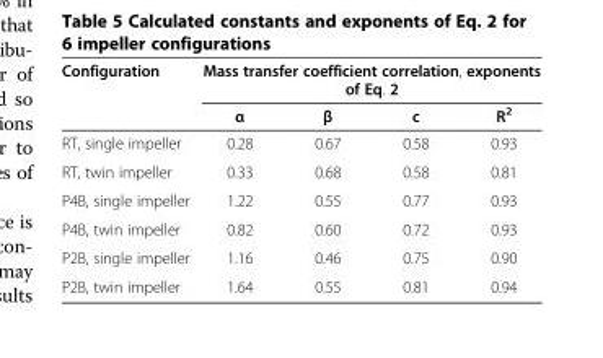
<table><thead><tr><td rowspan="2">Configuration</td><td colspan="4">Mass transfer coefficient correlation, exponents of Eq. 2</td></tr><tr><td>α</td><td>β</td><td>c</td><td>R<sup>2</sup></td></tr></thead><tbody><tr><td>RT, single impeller</td><td>0.28</td><td>0.67</td><td>0.58</td><td>0.93</td></tr><tr><td>RT, twin impeller</td><td>0.33</td><td>0.68</td><td>0.58</td><td>0.81</td></tr><tr><td>P4B, single impeller</td><td>1.22</td><td>0.55</td><td>0.77</td><td>0.93</td></tr><tr><td>P4B, twin impeller</td><td>0.82</td><td>0.60</td><td>0.72</td><td>0.93</td></tr><tr><td>P2B, single impeller</td><td>1.16</td><td>0.46</td><td>0.75</td><td>0.90</td></tr><tr><td>P2B, twin impeller</td><td>1.64</td><td>0.55</td><td>0.81</td><td>0.94</td></tr></tbody></table>